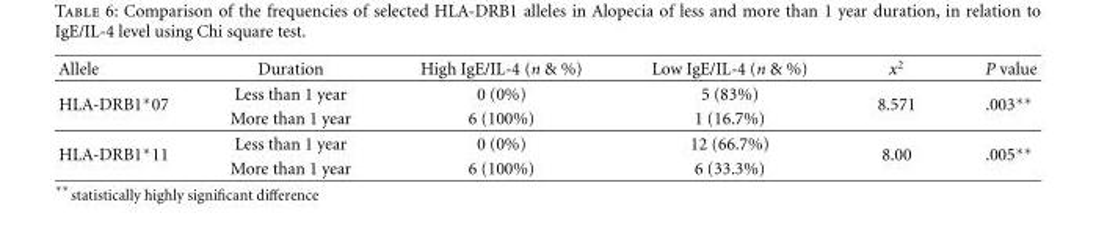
<table><thead><tr><td>Allele</td><td>Duration</td><td>High IgE/IL-4 (n &amp; %)</td><td>Low IgE/IL-4 (n &amp; %)</td><td>x<sup>2</sup></td><td>P value</td></tr></thead><tbody><tr><td rowspan="2">HLA-DRB1∗07</td><td>Less than 1 year</td><td>0 (0%)</td><td>5 (83%)</td><td rowspan="2">8.571</td><td rowspan="2">.003∗∗</td></tr><tr><td>More than 1 year</td><td>6 (100%)</td><td>1 (16.7%)</td></tr><tr><td rowspan="2">HLA-DRB1∗11</td><td>Less than 1 year</td><td>0 (0%)</td><td>12 (66.7%)</td><td rowspan="2">8.00</td><td rowspan="2">.005∗∗</td></tr><tr><td>More than 1 year</td><td>6 (100%)</td><td>6 (33.3%)</td></tr></tbody></table>